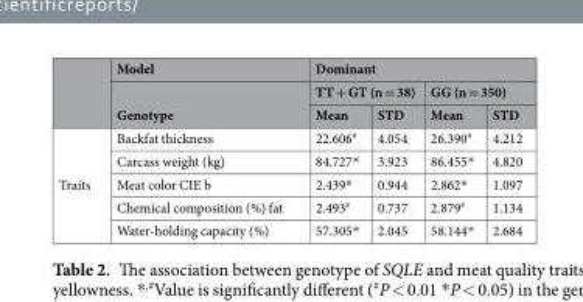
<table><thead><tr><td rowspan="3"></td><td rowspan="3">Model Genotype</td><td colspan="4">Dominant</td></tr><tr><td colspan="2">TT + GT (n = 38)</td><td colspan="2">GG (n = 350)</td></tr><tr><td>Mean</td><td>STD</td><td>Mean</td><td>STD</td></tr></thead><tbody><tr><td rowspan="5">Traits</td><td>Backfat thickness</td><td>22.606<sup>#</sup></td><td>4.054</td><td>26.390<sup>#</sup></td><td>4.212</td></tr><tr><td>Carcass weight (kg)</td><td>84.727*</td><td>3.923</td><td>86.455*</td><td>4.820</td></tr><tr><td>Meat color CIE b</td><td>2.439*</td><td>0.944</td><td>2.862*</td><td>1.097</td></tr><tr><td>Chemical composition (%) fat</td><td>2.493<sup>#</sup></td><td>0.737</td><td>2.879<sup>#</sup></td><td>1.134</td></tr><tr><td>Water-holding capacity (%)</td><td>57.305*</td><td>2.045</td><td>58.144*</td><td>2.684</td></tr></tbody></table>